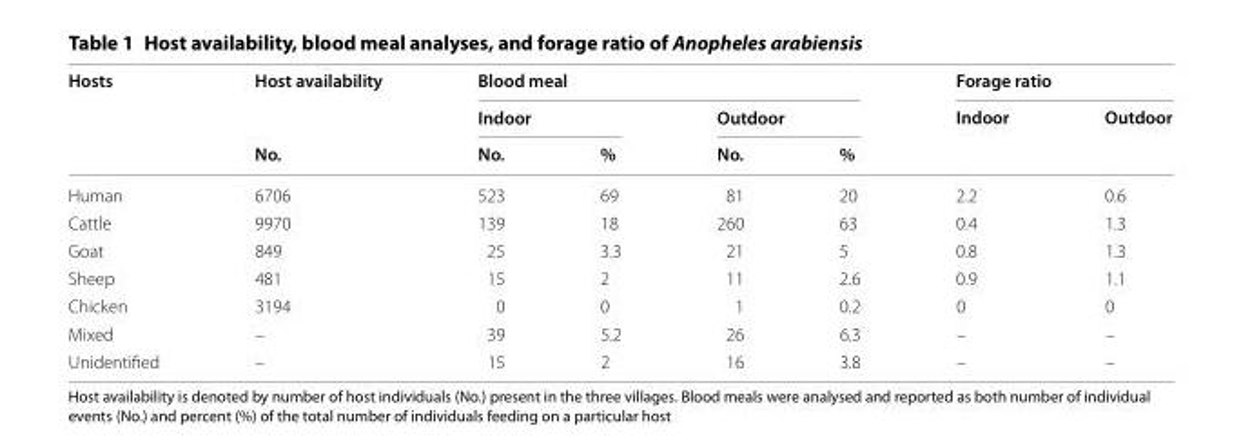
<table><thead><tr><td rowspan="3">Hosts</td><td rowspan="3">Host availability No.</td><td colspan="4">Blood meal</td><td colspan="2">Forage ratio</td></tr><tr><td colspan="2">Indoor</td><td colspan="2">Outdoor</td><td rowspan="2">Indoor</td><td rowspan="2">Outdoor</td></tr><tr><td>No.</td><td>%</td><td>No.</td><td>%</td></tr></thead><tbody><tr><td>Human</td><td>6706</td><td>523</td><td>69</td><td>81</td><td>20</td><td>2.2</td><td>0.6</td></tr><tr><td>Cattle</td><td>9970</td><td>139</td><td>18</td><td>260</td><td>63</td><td>0.4</td><td>1.3</td></tr><tr><td>Goat</td><td>849</td><td>25</td><td>3.3</td><td>21</td><td>5</td><td>0.8</td><td>1.3</td></tr><tr><td>Sheep</td><td>481</td><td>15</td><td>2</td><td>11</td><td>2.6</td><td>0.9</td><td>1.1</td></tr><tr><td>Chicken</td><td>3194</td><td>0</td><td>0</td><td>1</td><td>0.2</td><td>0</td><td>0</td></tr><tr><td>Mixed</td><td>–</td><td>39</td><td>5.2</td><td>26</td><td>6.3</td><td>–</td><td>–</td></tr><tr><td>Unidentified</td><td>–</td><td>15</td><td>2</td><td>16</td><td>3.8</td><td>–</td><td>–</td></tr></tbody></table>